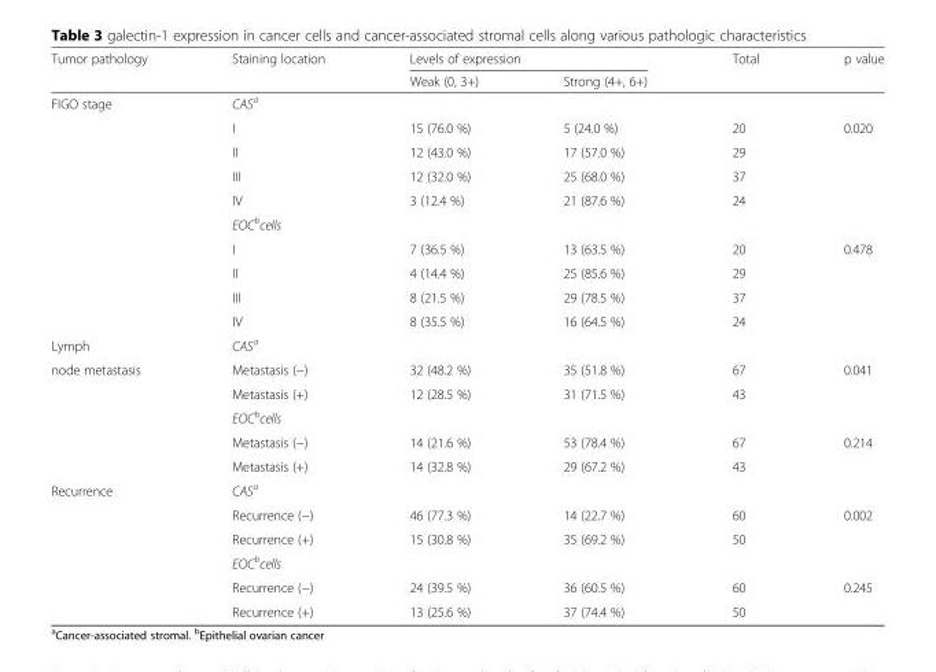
<table><thead><tr><td rowspan="2">Tumor pathology</td><td rowspan="2">Staining location</td><td colspan="2">Levels of expression</td><td rowspan="2">Total</td><td rowspan="2">p value</td></tr><tr><td>Weak (0, 3+)</td><td>Strong (4+, 6+)</td></tr></thead><tbody><tr><td rowspan="10">FIGO stage</td><td>CAS<sup>a</sup></td><td></td><td></td><td></td><td></td></tr><tr><td>I</td><td>15 (76.0 %)</td><td>5 (24.0 %)</td><td>20</td><td>0.020</td></tr><tr><td>II</td><td>12 (43.0 %)</td><td>17 (57.0 %)</td><td>29</td><td></td></tr><tr><td>III</td><td>12 (32.0 %)</td><td>25 (68.0 %)</td><td>37</td><td></td></tr><tr><td>IV</td><td>3 (12.4 %)</td><td>21 (87.6 %)</td><td>24</td><td></td></tr><tr><td>EOC<sup>b</sup>cells</td><td></td><td></td><td></td><td></td></tr><tr><td>I</td><td>7 (36.5 %)</td><td>13 (63.5 %)</td><td>20</td><td>0.478</td></tr><tr><td>II</td><td>4 (14.4 %)</td><td>25 (85.6 %)</td><td>29</td><td></td></tr><tr><td>III</td><td>8 (21.5 %)</td><td>29 (78.5 %)</td><td>37</td><td></td></tr><tr><td>IV</td><td>8 (35.5 %)</td><td>16 (64.5 %)</td><td>24</td><td></td></tr><tr><td>Lymph</td><td>CAS<sup>a</sup></td><td></td><td></td><td></td><td></td></tr><tr><td rowspan="5">node metastasis</td><td>Metastasis (−)</td><td>32 (48.2 %)</td><td>35 (51.8 %)</td><td>67</td><td>0.041</td></tr><tr><td>Metastasis (+)</td><td>12 (28.5 %)</td><td>31 (71.5 %)</td><td>43</td><td></td></tr><tr><td>EOC<sup>b</sup>cells</td><td></td><td></td><td></td><td></td></tr><tr><td>Metastasis (−)</td><td>14 (21.6 %)</td><td>53 (78.4 %)</td><td>67</td><td>0.214</td></tr><tr><td>Metastasis (+)</td><td>14 (32.8 %)</td><td>29 (67.2 %)</td><td>43</td><td></td></tr><tr><td rowspan="6">Recurrence</td><td>CAS<sup>a</sup></td><td></td><td></td><td></td><td></td></tr><tr><td>Recurrence (−)</td><td>46 (77.3 %)</td><td>14 (22.7 %)</td><td>60</td><td>0.002</td></tr><tr><td>Recurrence (+)</td><td>15 (30.8 %)</td><td>35 (69.2 %)</td><td>50</td><td></td></tr><tr><td>EOC<sup>b</sup>cells</td><td></td><td></td><td></td><td></td></tr><tr><td>Recurrence (−)</td><td>24 (39.5 %)</td><td>36 (60.5 %)</td><td>60</td><td>0.245</td></tr><tr><td>Recurrence (+)</td><td>13 (25.6 %)</td><td>37 (74.4 %)</td><td>50</td><td></td></tr></tbody></table>